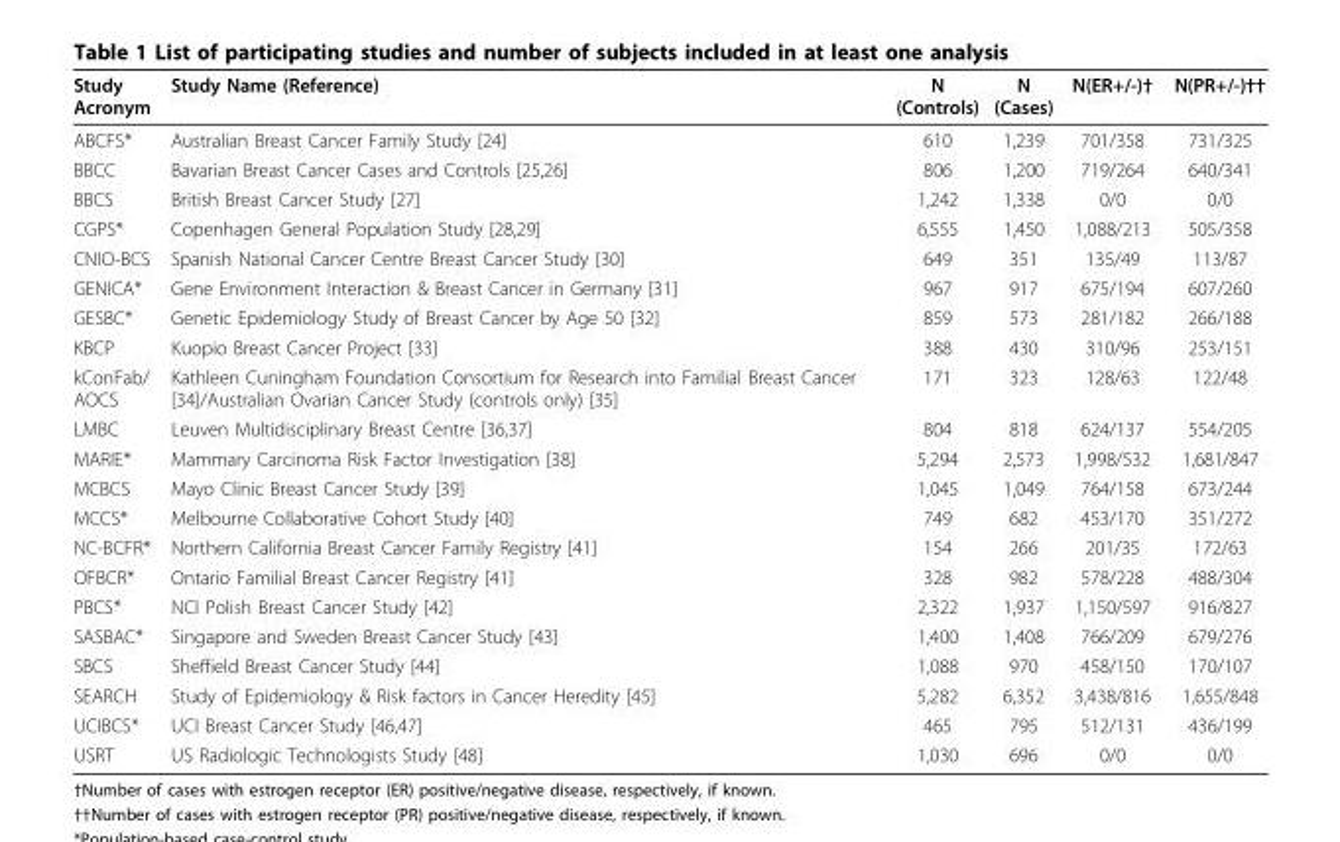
<table><thead><tr><td>Study Acronym</td><td>Study Name (Reference)</td><td>N (Controls)</td><td>N (Cases)</td><td>N(ER+/-)†</td><td>N(PR+/-)††</td></tr></thead><tbody><tr><td>ABCFS*</td><td>Australian Breast Cancer Family Study [24]</td><td>610</td><td>1,239</td><td>701/358</td><td>731/325</td></tr><tr><td>BBCC</td><td>Bavarian Breast Cancer Cases and Controls [25,26]</td><td>806</td><td>1,200</td><td>719/264</td><td>640/341</td></tr><tr><td>BBCS</td><td>British Breast Cancer Study [27]</td><td>1,242</td><td>1,338</td><td>0/0</td><td>0/0</td></tr><tr><td>CGPS*</td><td>Copenhagen General Population Study [28,29]</td><td>6,555</td><td>1,450</td><td>1,088/213</td><td>505/358</td></tr><tr><td>CNIO-BCS</td><td>Spanish National Cancer Centre Breast Cancer Study [30]</td><td>649</td><td>351</td><td>135/49</td><td>113/87</td></tr><tr><td>GENICA*</td><td>Gene Environment Interaction &amp; Breast Cancer in Germany [31]</td><td>967</td><td>917</td><td>675/194</td><td>607/260</td></tr><tr><td>GESBC*</td><td>Genetic Epidemiology Study of Breast Cancer by Age 50 [32]</td><td>859</td><td>573</td><td>281/182</td><td>266/188</td></tr><tr><td>KBCP</td><td>Kuopio Breast Cancer Project [33]</td><td>388</td><td>430</td><td>310/96</td><td>253/151</td></tr><tr><td>kConFab/ AOCS</td><td>Kathleen Cuningham Foundation Consortium for Research into Familial Breast Cancer [34]/Australian Ovarian Cancer Study (controls only) [35]</td><td>171</td><td>323</td><td>128/63</td><td>122/48</td></tr><tr><td>LMBC</td><td>Leuven Multidisciplinary Breast Centre [36,37]</td><td>804</td><td>818</td><td>624/137</td><td>554/205</td></tr><tr><td>MARIE*</td><td>Mammary Carcinoma Risk Factor Investigation [38]</td><td>5,294</td><td>2,573</td><td>1,998/532</td><td>1,681/847</td></tr><tr><td>MCBCS</td><td>Mayo Clinic Breast Cancer Study [39]</td><td>1,045</td><td>1,049</td><td>764/158</td><td>673/244</td></tr><tr><td>MCCS*</td><td>Melbourne Collaborative Cohort Study [40]</td><td>749</td><td>682</td><td>453/170</td><td>351/272</td></tr><tr><td>NC-BCFR*</td><td>Northern California Breast Cancer Family Registry [41]</td><td>154</td><td>266</td><td>201/35</td><td>172/63</td></tr><tr><td>OFBCR*</td><td>Ontario Familial Breast Cancer Registry [41]</td><td>328</td><td>982</td><td>578/228</td><td>488/304</td></tr><tr><td>PBCS*</td><td>NCI Polish Breast Cancer Study [42]</td><td>2,322</td><td>1,937</td><td>1,150/597</td><td>916/827</td></tr><tr><td>SASBAC*</td><td>Singapore and Sweden Breast Cancer Study [43]</td><td>1,400</td><td>1,408</td><td>766/209</td><td>679/276</td></tr><tr><td>SBCS</td><td>Sheffield Breast Cancer Study [44]</td><td>1,088</td><td>970</td><td>458/150</td><td>170/107</td></tr><tr><td>SEARCH</td><td>Study of Epidemiology &amp; Risk factors in Cancer Heredity [45]</td><td>5,282</td><td>6,352</td><td>3,438/816</td><td>1,655/848</td></tr><tr><td>UCIBCS*</td><td>UCI Breast Cancer Study [46,47]</td><td>465</td><td>795</td><td>512/131</td><td>436/199</td></tr><tr><td>USRT</td><td>US Radiologic Technologists Study [48]</td><td>1,030</td><td>696</td><td>0/0</td><td>0/0</td></tr></tbody></table>